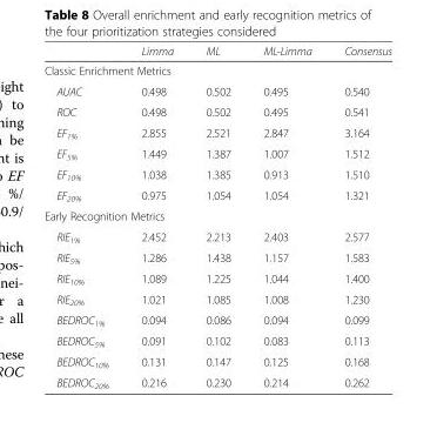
<table><thead><tr><td></td><td>Limma</td><td>ML</td><td>ML-Limma</td><td>Consensus</td></tr></thead><tbody><tr><td colspan="5">Classic Enrichment Metrics</td></tr><tr><td>AUAC</td><td>0.498</td><td>0.502</td><td>0.495</td><td>0.540</td></tr><tr><td>ROC</td><td>0.498</td><td>0.502</td><td>0.495</td><td>0.541</td></tr><tr><td>EF<sub>1%</sub></td><td>2.855</td><td>2.521</td><td>2.847</td><td>3.164</td></tr><tr><td>EF<sub>5%</sub></td><td>1.449</td><td>1.387</td><td>1.007</td><td>1.512</td></tr><tr><td>EF<sub>10%</sub></td><td>1.038</td><td>1.385</td><td>0.913</td><td>1.510</td></tr><tr><td>EF<sub>20%</sub></td><td>0.975</td><td>1.054</td><td>1.054</td><td>1.321</td></tr><tr><td colspan="5">Early Recognition Metrics</td></tr><tr><td>RIE<sub>1%</sub></td><td>2.452</td><td>2.213</td><td>2.403</td><td>2.577</td></tr><tr><td>RIE<sub>5%</sub></td><td>1.286</td><td>1.438</td><td>1.157</td><td>1.583</td></tr><tr><td>RIE<sub>10%</sub></td><td>1.089</td><td>1.225</td><td>1.044</td><td>1.400</td></tr><tr><td>RIE<sub>20%</sub></td><td>1.021</td><td>1.085</td><td>1.008</td><td>1.230</td></tr><tr><td>BEDROC<sub>1%</sub></td><td>0.094</td><td>0.086</td><td>0.094</td><td>0.099</td></tr><tr><td>BEDROC<sub>5%</sub></td><td>0.091</td><td>0.102</td><td>0.083</td><td>0.113</td></tr><tr><td>BEDROC<sub>10%</sub></td><td>0.131</td><td>0.147</td><td>0.125</td><td>0.168</td></tr><tr><td>BEDROC<sub>20%</sub></td><td>0.216</td><td>0.230</td><td>0.214</td><td>0.262</td></tr></tbody></table>